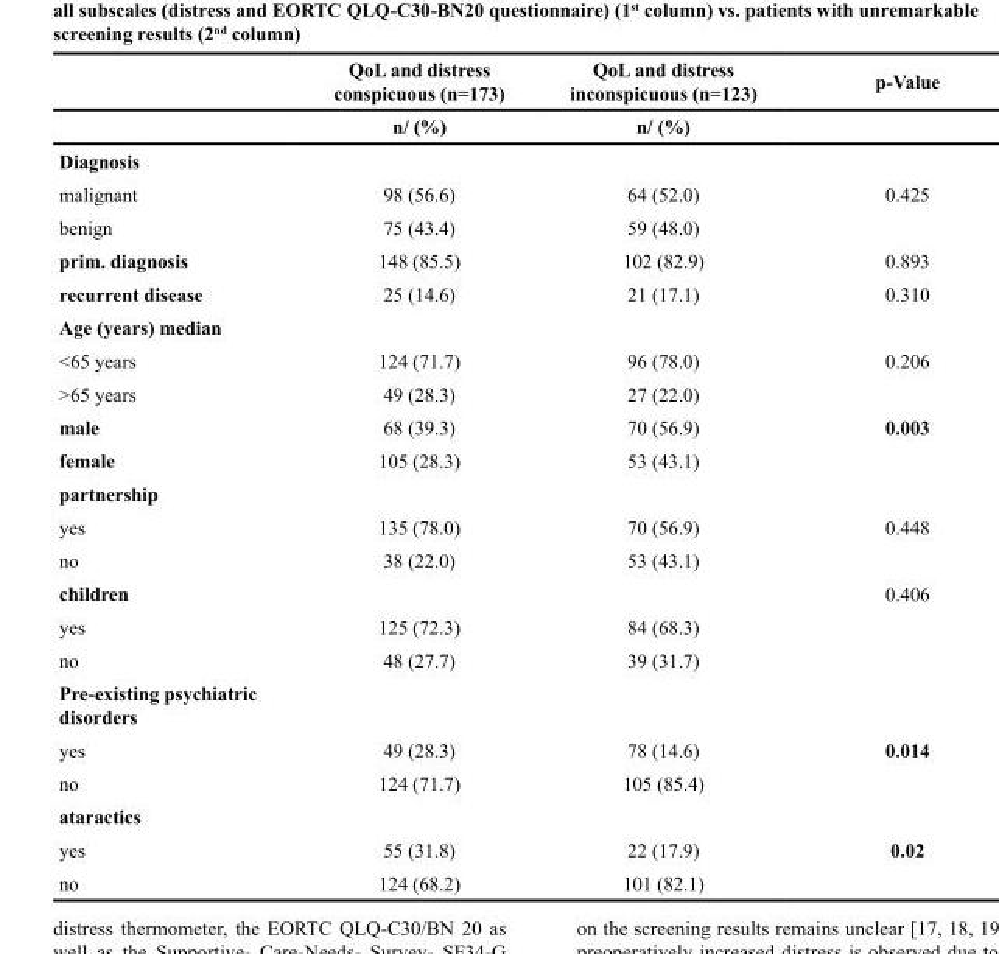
<table><thead><tr><td rowspan="2"></td><td rowspan="2">QoL and distress conspicuous (n=173) n/ (%)</td><td rowspan="2">QoL and distress inconspicuous (n=123) n/ (%)</td><td rowspan="2">p-Value</td></tr><tr></tr></thead><tbody><tr><td colspan="4">Diagnosis</td></tr><tr><td>malignant</td><td>98 (56.6)</td><td>64 (52.0)</td><td>0.425</td></tr><tr><td>benign</td><td>75 (43.4)</td><td>59 (48.0)</td><td></td></tr><tr><td>prim. diagnosis</td><td>148 (85.5)</td><td>102 (82.9)</td><td>0.893</td></tr><tr><td>recurrent disease</td><td>25 (14.6)</td><td>21 (17.1)</td><td>0.310</td></tr><tr><td colspan="4">Age (years) median</td></tr><tr><td>&lt;65 years</td><td>124 (71.7)</td><td>96 (78.0)</td><td>0.206</td></tr><tr><td>&gt;65 years</td><td>49 (28.3)</td><td>27 (22.0)</td><td></td></tr><tr><td>male</td><td>68 (39.3)</td><td>70 (56.9)</td><td>0.003</td></tr><tr><td>female</td><td>105 (28.3)</td><td>53 (43.1)</td><td></td></tr><tr><td colspan="4">partnership</td></tr><tr><td>yes</td><td>135 (78.0)</td><td>70 (56.9)</td><td>0.448</td></tr><tr><td>no</td><td>38 (22.0)</td><td>53 (43.1)</td><td></td></tr><tr><td>children</td><td></td><td></td><td>0.406</td></tr><tr><td>yes</td><td>125 (72.3)</td><td>84 (68.3)</td><td></td></tr><tr><td>no</td><td>48 (27.7)</td><td>39 (31.7)</td><td></td></tr><tr><td colspan="4">Pre-existing psychiatric disorders</td></tr><tr><td>yes</td><td>49 (28.3)</td><td>78 (14.6)</td><td>0.014</td></tr><tr><td>no</td><td>124 (71.7)</td><td>105 (85.4)</td><td></td></tr><tr><td colspan="4">ataractics</td></tr><tr><td>yes</td><td>55 (31.8)</td><td>22 (17.9)</td><td>0.02</td></tr><tr><td>no</td><td>124 (68.2)</td><td>101 (82.1)</td><td></td></tr></tbody></table>